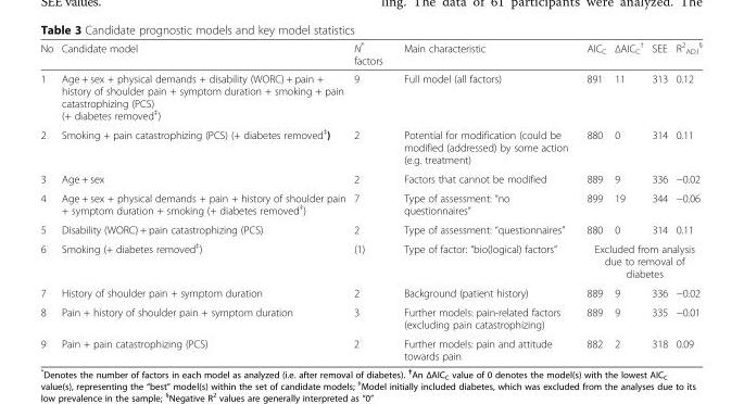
<table><thead><tr><td>No</td><td>Candidate model</td><td>N* factors</td><td>Main characteristic</td><td>AIC<sub>C</sub></td><td>ΔAICC †</td><td>SEE</td><td>R<sup>2</sup> <sub>ADJ</sub> <sup>§</sup></td></tr></thead><tbody><tr><td>1</td><td>Age + sex + physical demands + disability (WORC) + pain + history of shoulder pain + symptom duration + smoking + pain catastrophizing (PCS) (+ diabetes removed<sup>‡</sup>)</td><td>9</td><td>Full model (all factors)</td><td>891</td><td>11</td><td>313</td><td>0.12</td></tr><tr><td>2</td><td>Smoking + pain catastrophizing (PCS) (+ diabetes removed<sup>‡</sup>)</td><td>2</td><td>Potential for modification (could be modified (addressed) by some action (e.g. treatment)</td><td>880</td><td>0</td><td>314</td><td>0.11</td></tr><tr><td>3</td><td>Age + sex</td><td>2</td><td>Factors that cannot be modified</td><td>889</td><td>9</td><td>336</td><td>−0.02</td></tr><tr><td>4</td><td>Age + sex + physical demands + pain + history of shoulder pain + symptom duration + smoking (+ diabetes removed<sup>‡</sup>)</td><td>7</td><td>Type of assessment: “no questionnaires”</td><td>899</td><td>19</td><td>344</td><td>−0.06</td></tr><tr><td>5</td><td>Disability (WORC) + pain catastrophizing (PCS)</td><td>2</td><td>Type of assessment: “questionnaires”</td><td>880</td><td>0</td><td>314</td><td>0.11</td></tr><tr><td>6</td><td>Smoking (+ diabetes removed<sup>‡</sup>)</td><td>(1)</td><td>Type of factor: “bio(logical) factors”</td><td colspan="4">Excluded from analysis due to removal of diabetes</td></tr><tr><td>7</td><td>History of shoulder pain + symptom duration</td><td>2</td><td>Background (patient history)</td><td>889</td><td>9</td><td>336</td><td>−0.02</td></tr><tr><td>8</td><td>Pain + history of shoulder pain + symptom duration</td><td>3</td><td>Further models: pain-related factors (excluding pain catastrophizing)</td><td>889</td><td>9</td><td>335</td><td>−0.01</td></tr><tr><td>9</td><td>Pain + pain catastrophizing (PCS)</td><td>2</td><td>Further models: pain and attitude towards pain</td><td>882</td><td>2</td><td>318</td><td>0.09</td></tr></tbody></table>